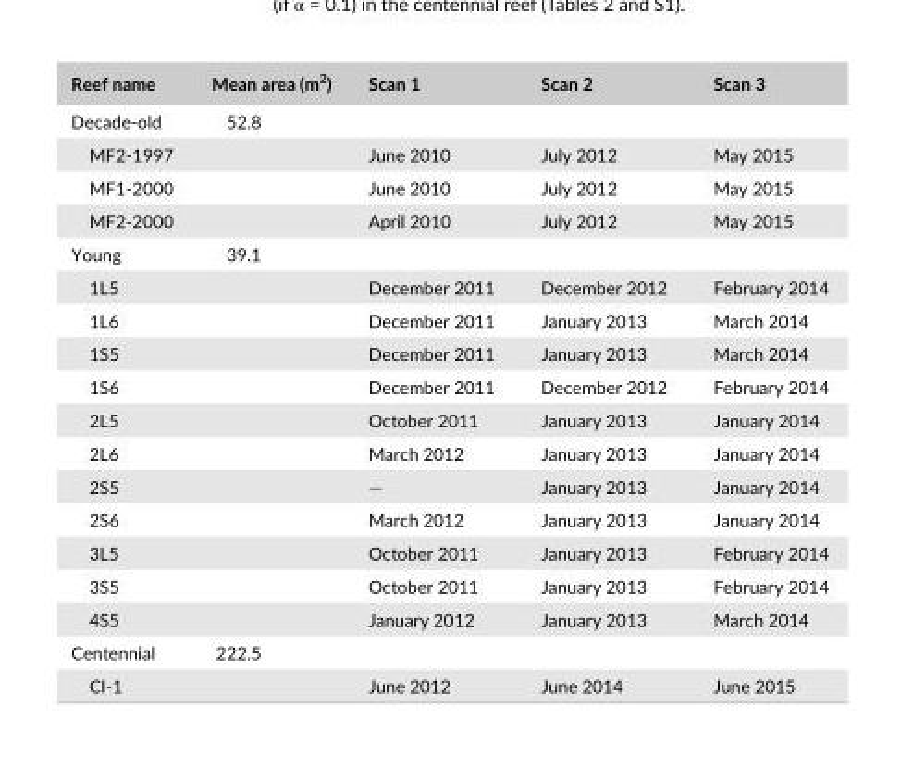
<table><thead><tr><td>Reef name</td><td>Mean area (m<sup>2</sup>)</td><td>Scan 1</td><td>Scan 2</td><td>Scan 3</td></tr></thead><tbody><tr><td>Decade- old</td><td>52.8</td><td></td><td></td><td></td></tr><tr><td>MF2- 1997</td><td></td><td>June 2010</td><td>July 2012</td><td>May 2015</td></tr><tr><td>MF1- 2000</td><td></td><td>June 2010</td><td>July 2012</td><td>May 2015</td></tr><tr><td>MF2- 2000</td><td></td><td>April 2010</td><td>July 2012</td><td>May 2015</td></tr><tr><td>Young</td><td>39.1</td><td></td><td></td><td></td></tr><tr><td>1L5</td><td></td><td>December 2011</td><td>December 2012</td><td>February 2014</td></tr><tr><td>1L6</td><td></td><td>December 2011</td><td>January 2013</td><td>March 2014</td></tr><tr><td>1S5</td><td></td><td>December 2011</td><td>January 2013</td><td>March 2014</td></tr><tr><td>1S6</td><td></td><td>December 2011</td><td>December 2012</td><td>February 2014</td></tr><tr><td>2L5</td><td></td><td>October 2011</td><td>January 2013</td><td>January 2014</td></tr><tr><td>2L6</td><td></td><td>March 2012</td><td>January 2013</td><td>January 2014</td></tr><tr><td>2S5</td><td></td><td>—</td><td>January 2013</td><td>January 2014</td></tr><tr><td>2S6</td><td></td><td>March 2012</td><td>January 2013</td><td>January 2014</td></tr><tr><td>3L5</td><td></td><td>October 2011</td><td>January 2013</td><td>February 2014</td></tr><tr><td>3S5</td><td></td><td>October 2011</td><td>January 2013</td><td>February 2014</td></tr><tr><td>4S5</td><td></td><td>January 2012</td><td>January 2013</td><td>March 2014</td></tr><tr><td>Centennial</td><td>222.5</td><td></td><td></td><td></td></tr><tr><td>CI- 1</td><td></td><td>June 2012</td><td>June 2014</td><td>June 2015</td></tr></tbody></table>